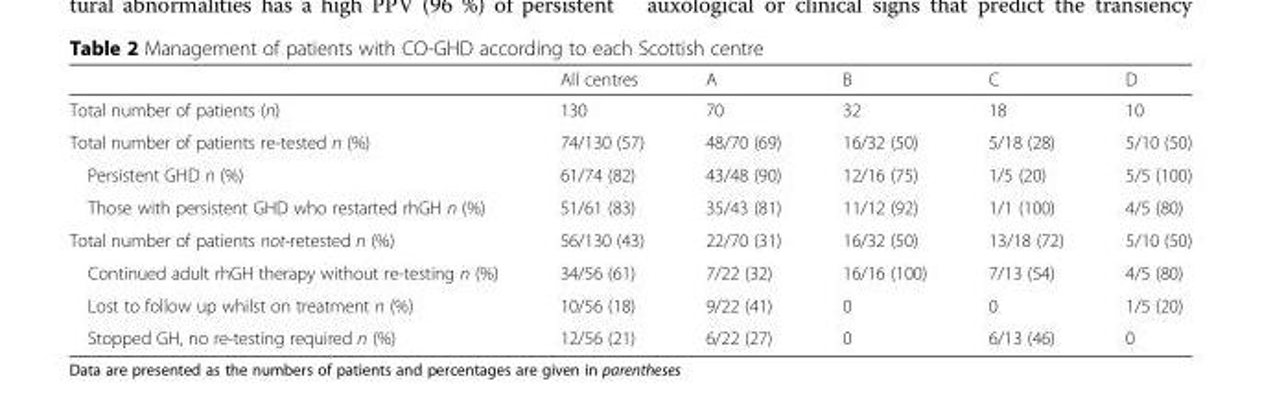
<table><thead><tr><td></td><td>All centres</td><td>A</td><td>B</td><td>C</td><td>D</td></tr></thead><tbody><tr><td>Total number of patients (n)</td><td>130</td><td>70</td><td>32</td><td>18</td><td>10</td></tr><tr><td>Total number of patients re-tested n (%)</td><td>74/130 (57)</td><td>48/70 (69)</td><td>16/32 (50)</td><td>5/18 (28)</td><td>5/10 (50)</td></tr><tr><td>Persistent GHD n (%)</td><td>61/74 (82)</td><td>43/48 (90)</td><td>12/16 (75)</td><td>1/5 (20)</td><td>5/5 (100)</td></tr><tr><td>Those with persistent GHD who restarted rhGH n (%)</td><td>51/61 (83)</td><td>35/43 (81)</td><td>11/12 (92)</td><td>1/1 (100)</td><td>4/5 (80)</td></tr><tr><td>Total number of patients not-retested n (%)</td><td>56/130 (43)</td><td>22/70 (31)</td><td>16/32 (50)</td><td>13/18 (72)</td><td>5/10 (50)</td></tr><tr><td>Continued adult rhGH therapy without re-testing n (%)</td><td>34/56 (61)</td><td>7/22 (32)</td><td>16/16 (100)</td><td>7/13 (54)</td><td>4/5 (80)</td></tr><tr><td>Lost to follow up whilst on treatment n (%)</td><td>10/56 (18)</td><td>9/22 (41)</td><td>0</td><td>0</td><td>1/5 (20)</td></tr><tr><td>Stopped GH, no re-testing required n (%)</td><td>12/56 (21)</td><td>6/22 (27)</td><td>0</td><td>6/13 (46)</td><td>0</td></tr></tbody></table>